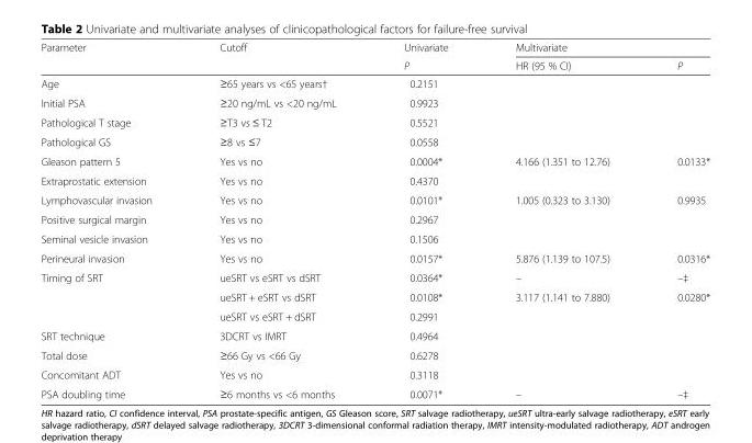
<table><thead><tr><td rowspan="2">Parameter</td><td rowspan="2">Cutoff</td><td rowspan="2">Univariate P</td><td colspan="2">Multivariate</td></tr><tr><td>HR (95 % CI)</td><td>P</td></tr></thead><tbody><tr><td>Age</td><td>≥65 years vs &lt;65 years†</td><td>0.2151</td><td></td><td></td></tr><tr><td>Initial PSA</td><td>≥20 ng/mL vs &lt;20 ng/mL</td><td>0.9923</td><td></td><td></td></tr><tr><td>Pathological T stage</td><td>≥T3 vs ≤ T2</td><td>0.5521</td><td></td><td></td></tr><tr><td>Pathological GS</td><td>≥8 vs ≤7</td><td>0.0558</td><td></td><td></td></tr><tr><td>Gleason pattern 5</td><td>Yes vs no</td><td>0.0004*</td><td>4.166 (1.351 to 12.76)</td><td>0.0133*</td></tr><tr><td>Extraprostatic extension</td><td>Yes vs no</td><td>0.4370</td><td></td><td></td></tr><tr><td>Lymphovascular invasion</td><td>Yes vs no</td><td>0.0101*</td><td>1.005 (0.323 to 3.130)</td><td>0.9935</td></tr><tr><td>Positive surgical margin</td><td>Yes vs no</td><td>0.2967</td><td></td><td></td></tr><tr><td>Seminal vesicle invasion</td><td>Yes vs no</td><td>0.1506</td><td></td><td></td></tr><tr><td>Perineural invasion</td><td>Yes vs no</td><td>0.0157*</td><td>5.876 (1.139 to 107.5)</td><td>0.0316*</td></tr><tr><td rowspan="3">Timing of SRT</td><td>ueSRT vs eSRT vs dSRT</td><td>0.0364*</td><td>–</td><td>–‡</td></tr><tr><td>ueSRT + eSRT vs dSRT</td><td>0.0108*</td><td>3.117 (1.141 to 7.880)</td><td>0.0280*</td></tr><tr><td>ueSRT vs eSRT + dSRT</td><td>0.2991</td><td></td><td></td></tr><tr><td>SRT technique</td><td>3DCRT vs IMRT</td><td>0.4964</td><td></td><td></td></tr><tr><td>Total dose</td><td>≥66 Gy vs &lt;66 Gy</td><td>0.6278</td><td></td><td></td></tr><tr><td>Concomitant ADT</td><td>Yes vs no</td><td>0.3118</td><td></td><td></td></tr><tr><td>PSA doubling time</td><td>≥6 months vs &lt;6 months</td><td>0.0071*</td><td>–</td><td>–‡</td></tr></tbody></table>